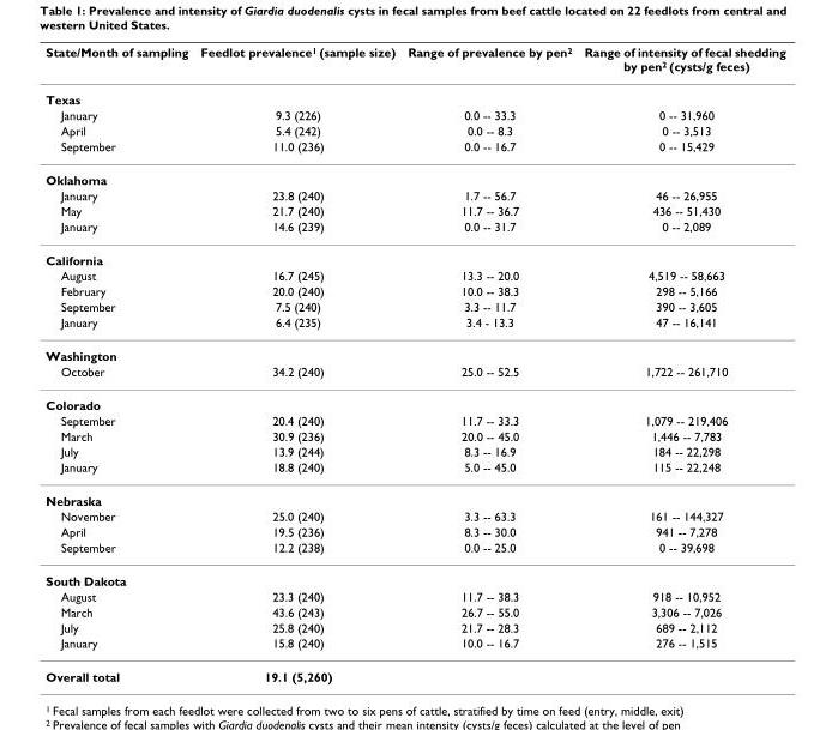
<table><thead><tr><td>State/Month of sampling</td><td>Feedlot prevalence<sup>1</sup> (sample size)</td><td>Range of prevalence by pen<sup>2</sup></td><td>Range of intensity of fecal shedding by pen<sup>2</sup> (cysts/g feces)</td></tr></thead><tbody><tr><td colspan="4">Texas</td></tr><tr><td>January</td><td>9.3 (226)</td><td>0.0 -- 33.3</td><td>0 -- 31,960</td></tr><tr><td>April</td><td>5.4 (242)</td><td>0.0 -- 8.3</td><td>0 -- 3,513</td></tr><tr><td>September</td><td>11.0 (236)</td><td>0.0 -- 16.7</td><td>0 -- 15,429</td></tr><tr><td colspan="4">Oklahoma</td></tr><tr><td>January</td><td>23.8 (240)</td><td>1.7 -- 56.7</td><td>46 -- 26,955</td></tr><tr><td>May</td><td>21.7 (240)</td><td>11.7 -- 36.7</td><td>436 -- 51,430</td></tr><tr><td>January</td><td>14.6 (239)</td><td>0.0 -- 31.7</td><td>0 -- 2,089</td></tr><tr><td colspan="4">California</td></tr><tr><td>August</td><td>16.7 (245)</td><td>13.3 -- 20.0</td><td>4,519 -- 58,663</td></tr><tr><td>February</td><td>20.0 (240)</td><td>10.0 -- 38.3</td><td>298 -- 5,166</td></tr><tr><td>September</td><td>7.5 (240)</td><td>3.3 -- 11.7</td><td>390 -- 3,605</td></tr><tr><td>January</td><td>6.4 (235)</td><td>3.4 - 13.3</td><td>47 -- 16,141</td></tr><tr><td colspan="4">Washington</td></tr><tr><td>October</td><td>34.2 (240)</td><td>25.0 -- 52.5</td><td>1,722 -- 261,710</td></tr><tr><td colspan="4">Colorado</td></tr><tr><td>September</td><td>20.4 (240)</td><td>11.7 -- 33.3</td><td>1,079 -- 219,406</td></tr><tr><td>March</td><td>30.9 (236)</td><td>20.0 -- 45.0</td><td>1,446 -- 7,783</td></tr><tr><td>July</td><td>13.9 (244)</td><td>8.3 -- 16.9</td><td>184 -- 22,298</td></tr><tr><td>January</td><td>18.8 (240)</td><td>5.0 -- 45.0</td><td>115 -- 22,248</td></tr><tr><td colspan="4">Nebraska</td></tr><tr><td>November</td><td>25.0 (240)</td><td>3.3 -- 63.3</td><td>161 -- 144,327</td></tr><tr><td>April</td><td>19.5 (236)</td><td>8.3 -- 30.0</td><td>941 -- 7,278</td></tr><tr><td>September</td><td>12.2 (238)</td><td>0.0 -- 25.0</td><td>0 -- 39,698</td></tr><tr><td colspan="4">South Dakota</td></tr><tr><td>August</td><td>23.3 (240)</td><td>11.7 -- 38.3</td><td>918 -- 10,952</td></tr><tr><td>March</td><td>43.6 (243)</td><td>26.7 -- 55.0</td><td>3,306 -- 7,026</td></tr><tr><td>July</td><td>25.8 (240)</td><td>21.7 -- 28.3</td><td>689 -- 2,112</td></tr><tr><td>January</td><td>15.8 (240)</td><td>10.0 -- 16.7</td><td>276 -- 1,515</td></tr><tr><td>Overall total</td><td>19.1 (5,260)</td><td></td><td></td></tr></tbody></table>